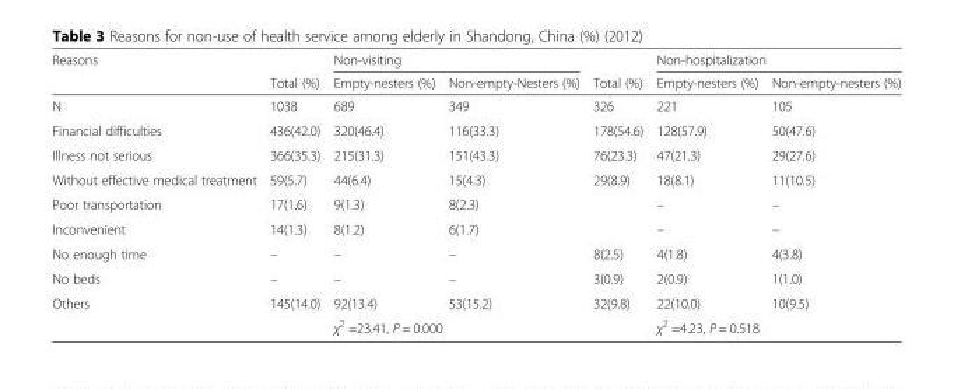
<table><thead><tr><td rowspan="2">Reasons</td><td rowspan="2">Total (%)</td><td colspan="2">Non-visiting</td><td rowspan="2">Total (%)</td><td colspan="2">Non-hospitalization</td></tr><tr><td>Empty-nesters (%)</td><td>Non-empty-Nesters (%)</td><td>Empty-nesters (%)</td><td>Non-empty-nesters (%)</td></tr></thead><tbody><tr><td>N</td><td>1038</td><td>689</td><td>349</td><td>326</td><td>221</td><td>105</td></tr><tr><td>Financial difficulties</td><td>436(42.0)</td><td>320(46.4)</td><td>116(33.3)</td><td>178(54.6)</td><td>128(57.9)</td><td>50(47.6)</td></tr><tr><td>Illness not serious</td><td>366(35.3)</td><td>215(31.3)</td><td>151(43.3)</td><td>76(23.3)</td><td>47(21.3)</td><td>29(27.6)</td></tr><tr><td>Without effective medical treatment</td><td>59(5.7)</td><td>44(6.4)</td><td>15(4.3)</td><td>29(8.9)</td><td>18(8.1)</td><td>11(10.5)</td></tr><tr><td>Poor transportation</td><td>17(1.6)</td><td>9(1.3)</td><td>8(2.3)</td><td></td><td>–</td><td>–</td></tr><tr><td>Inconvenient</td><td>14(1.3)</td><td>8(1.2)</td><td>6(1.7)</td><td></td><td>–</td><td>–</td></tr><tr><td>No enough time</td><td>–</td><td>–</td><td>–</td><td>8(2.5)</td><td>4(1.8)</td><td>4(3.8)</td></tr><tr><td>No beds</td><td>–</td><td>–</td><td>–</td><td>3(0.9)</td><td>2(0.9)</td><td>1(1.0)</td></tr><tr><td rowspan="2">Others</td><td>145(14.0)</td><td>92(13.4)</td><td>53(15.2)</td><td>32(9.8)</td><td>22(10.0)</td><td>10(9.5)</td></tr><tr><td></td><td colspan="2">χ<sup>2</sup> =23.41, P = 0.000</td><td></td><td colspan="2">χ<sup>2</sup> =4.23, P = 0.518</td></tr></tbody></table>